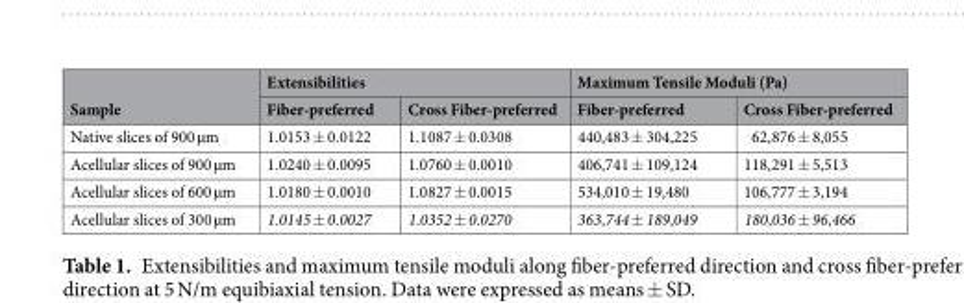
<table><thead><tr><td rowspan="2">Sample</td><td colspan="2">Extensibilities</td><td colspan="2">Maximum Tensile Moduli (Pa)</td></tr><tr><td>Fiber-preferred</td><td>Cross Fiber-preferred</td><td>Fiber-preferred</td><td>Cross Fiber-preferred</td></tr></thead><tbody><tr><td>Native slices of 900 µm</td><td>1.0153 ± 0.0122</td><td>1.1087 ± 0.0308</td><td>440,483 ± 304,225</td><td>62,876 ± 8,055</td></tr><tr><td>Acellular slices of 900 µm</td><td>1.0240 ± 0.0095</td><td>1.0760 ± 0.0010</td><td>406,741 ± 109,124</td><td>118,291 ± 5,513</td></tr><tr><td>Acellular slices of 600 µm</td><td>1.0180 ± 0.0010</td><td>1.0827 ± 0.0015</td><td>534,010 ± 19,480</td><td>106,777 ± 3,194</td></tr><tr><td>Acellular slices of 300 µm</td><td>1.0145 ± 0.0027</td><td>1.0352 ± 0.0270</td><td>363,744 ± 189,049</td><td>180,036 ± 96,466</td></tr></tbody></table>